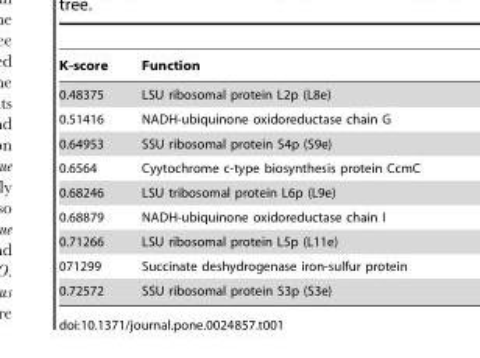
<table><thead><tr><td>K-score</td><td>Function</td></tr></thead><tbody><tr><td>0.48375</td><td>LSU ribosomal protein L2p (L8e)</td></tr><tr><td>0.51416</td><td>NADH-ubiquinone oxidoreductase chain G</td></tr><tr><td>0.64953</td><td>SSU ribosomal protein S4p (S9e)</td></tr><tr><td>0.6564</td><td>Cyytochrome c-type biosynthesis protein CcmC</td></tr><tr><td>0.68246</td><td>LSU tribosomal protein L6p (L9e)</td></tr><tr><td>0.68879</td><td>NADH-ubiquinone oxidoreductase chain I</td></tr><tr><td>0.71266</td><td>LSU ribosomal protein L5p (L11e)</td></tr><tr><td>071299</td><td>Succinate deshydrogenase iron-sulfur protein</td></tr><tr><td>0.72572</td><td>SSU ribosomal protein S3p (S3e)</td></tr></tbody></table>